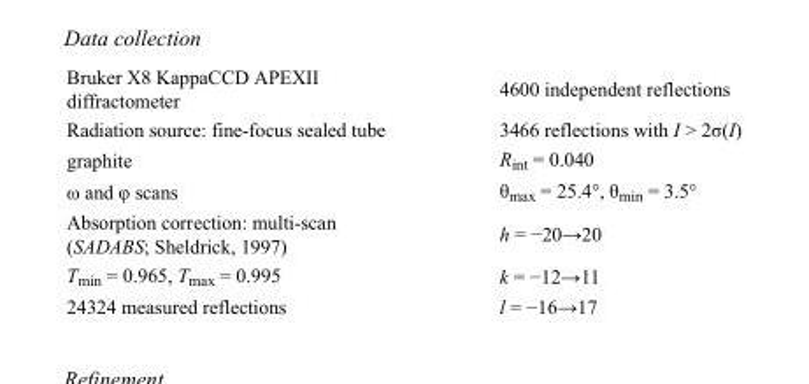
<table><tbody><tr><td>Bruker X8 KappaCCD APEXII diffractometer</td><td>4600 independent reflections</td></tr><tr><td>Radiation source: fine-focus sealed tube</td><td>3466 reflections with I &gt; 2σ(I)</td></tr><tr><td>graphite</td><td>R<sub>int</sub> = 0.040</td></tr><tr><td>ω and φ scans</td><td>θ<sub>max</sub> = 25.4°, θ<sub>min</sub> = 3.5°</td></tr><tr><td>Absorption correction: multi-scan (SADABS; Sheldrick, 1997)</td><td>h = −20→20</td></tr><tr><td>T<sub>min</sub> = 0.965, T<sub>max</sub> = 0.995</td><td>k = −12→11</td></tr><tr><td>24324 measured reflections</td><td>l = −16→17</td></tr></tbody></table>